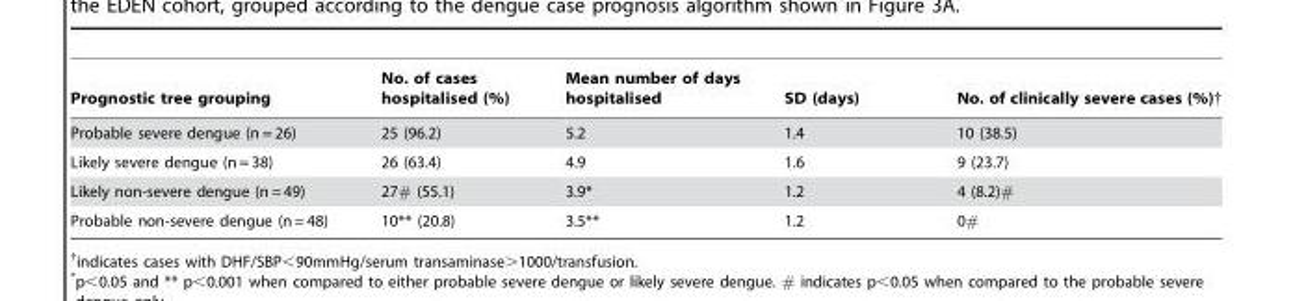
<table><thead><tr><td>Prognostic tree grouping</td><td>No. of cases hospitalised (%)</td><td>Mean number of days hospitalised</td><td>SD (days)</td><td>No. of clinically severe cases (%)†</td></tr></thead><tbody><tr><td>Probable severe dengue (n = 26)</td><td>25 (96.2)</td><td>5.2</td><td>1.4</td><td>10 (38.5)</td></tr><tr><td>Likely severe dengue (n = 38)</td><td>26 (63.4)</td><td>4.9</td><td>1.6</td><td>9 (23.7)</td></tr><tr><td>Likely non-severe dengue (n = 49)</td><td>27# (55.1)</td><td>3.9*</td><td>1.2</td><td>4 (8.2)#</td></tr><tr><td>Probable non-severe dengue (n = 48)</td><td>10** (20.8)</td><td>3.5**</td><td>1.2</td><td>0#</td></tr></tbody></table>